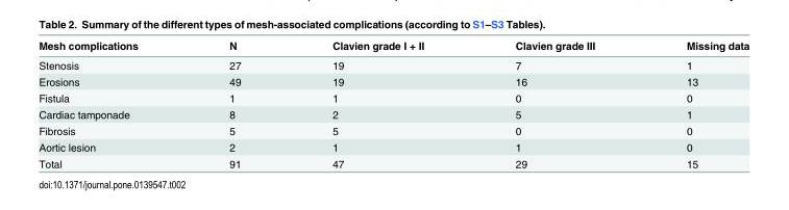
<table><thead><tr><td>Mesh complications</td><td>N</td><td>Clavien grade I + II</td><td>Clavien grade III</td><td>Missing data</td></tr></thead><tbody><tr><td>Stenosis</td><td>27</td><td>19</td><td>7</td><td>1</td></tr><tr><td>Erosions</td><td>49</td><td>19</td><td>16</td><td>13</td></tr><tr><td>Fistula</td><td>1</td><td>1</td><td>0</td><td>0</td></tr><tr><td>Cardiac tamponade</td><td>8</td><td>2</td><td>5</td><td>1</td></tr><tr><td>Fibrosis</td><td>5</td><td>5</td><td>0</td><td>0</td></tr><tr><td>Aortic lesion</td><td>2</td><td>1</td><td>1</td><td>0</td></tr><tr><td>Total</td><td>91</td><td>47</td><td>29</td><td>15</td></tr></tbody></table>